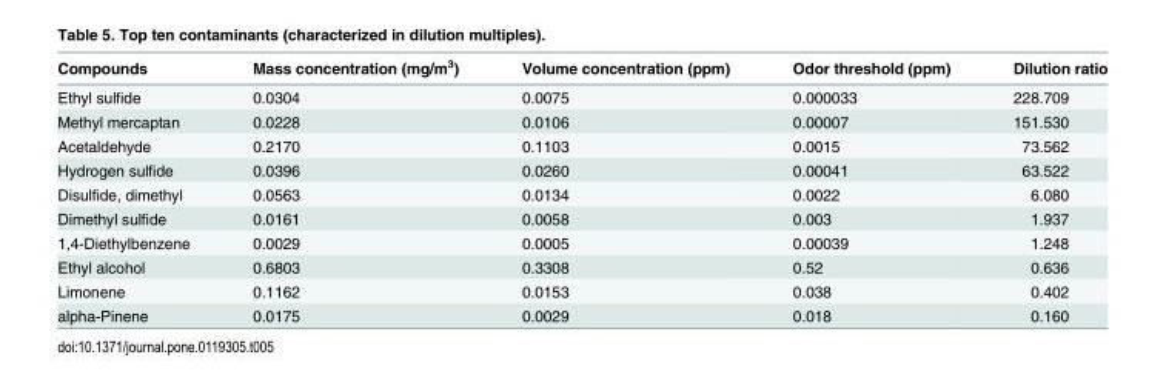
<table><thead><tr><td>Compounds</td><td>Mass concentration (mg/m<sup>3</sup>)</td><td>Volume concentration (ppm)</td><td>Odor threshold (ppm)</td><td>Dilution ratio</td></tr></thead><tbody><tr><td>Ethyl sulfide</td><td>0.0304</td><td>0.0075</td><td>0.000033</td><td>228.709</td></tr><tr><td>Methyl mercaptan</td><td>0.0228</td><td>0.0106</td><td>0.00007</td><td>151.530</td></tr><tr><td>Acetaldehyde</td><td>0.2170</td><td>0.1103</td><td>0.0015</td><td>73.562</td></tr><tr><td>Hydrogen sulfide</td><td>0.0396</td><td>0.0260</td><td>0.00041</td><td>63.522</td></tr><tr><td>Disulfide, dimethyl</td><td>0.0563</td><td>0.0134</td><td>0.0022</td><td>6.080</td></tr><tr><td>Dimethyl sulfide</td><td>0.0161</td><td>0.0058</td><td>0.003</td><td>1.937</td></tr><tr><td>1,4-Diethylbenzene</td><td>0.0029</td><td>0.0005</td><td>0.00039</td><td>1.248</td></tr><tr><td>Ethyl alcohol</td><td>0.6803</td><td>0.3308</td><td>0.52</td><td>0.636</td></tr><tr><td>Limonene</td><td>0.1162</td><td>0.0153</td><td>0.038</td><td>0.402</td></tr><tr><td>alpha-Pinene</td><td>0.0175</td><td>0.0029</td><td>0.018</td><td>0.160</td></tr></tbody></table>